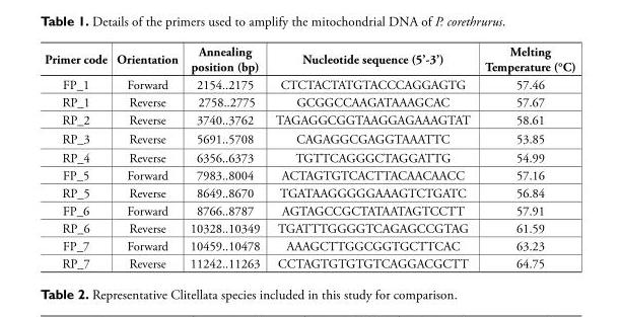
<table><thead><tr><td>Primer code</td><td>Orientation</td><td>Annealing position (bp)</td><td>Nucleotide sequence (5’-3’)</td><td>Melting Temperature (°C)</td></tr></thead><tbody><tr><td>FP_1</td><td>Forward</td><td>2154..2175</td><td>CTCTACTATGTACCCAGGAGTG</td><td>57.46</td></tr><tr><td>RP_1</td><td>Reverse</td><td>2758..2775</td><td>GCGGCCAAGATAAAGCAC</td><td>57.67</td></tr><tr><td>RP_2</td><td>Reverse</td><td>3740..3762</td><td>TAGAGGCGGTAAGGAGAAAGTAT</td><td>58.61</td></tr><tr><td>RP_3</td><td>Reverse</td><td>5691..5708</td><td>CAGAGGCGAGGTAAATTC</td><td>53.85</td></tr><tr><td>RP_4</td><td>Reverse</td><td>6356..6373</td><td>TGTTCAGGGCTAGGATTG</td><td>54.99</td></tr><tr><td>FP_5</td><td>Forward</td><td>7983..8004</td><td>ACTAGTGTCACTTACAACAACC</td><td>57.16</td></tr><tr><td>RP_5</td><td>Reverse</td><td>8649..8670</td><td>TGATAAGGGGGAAAGTCTGATC</td><td>56.84</td></tr><tr><td>FP_6</td><td>Forward</td><td>8766..8787</td><td>AGTAGCCGCTATAATAGTCCTT</td><td>57.91</td></tr><tr><td>RP_6</td><td>Reverse</td><td>10328..10349</td><td>TGATTTGGGGTCAGAGCCGTAG</td><td>61.59</td></tr><tr><td>FP_7</td><td>Forward</td><td>10459..10478</td><td>AAAGCTTGGCGGTGCTTCAC</td><td>63.23</td></tr><tr><td>RP_7</td><td>Reverse</td><td>11242..11263</td><td>CCTAGTGTGTGTCAGGACGCTT</td><td>64.75</td></tr></tbody></table>